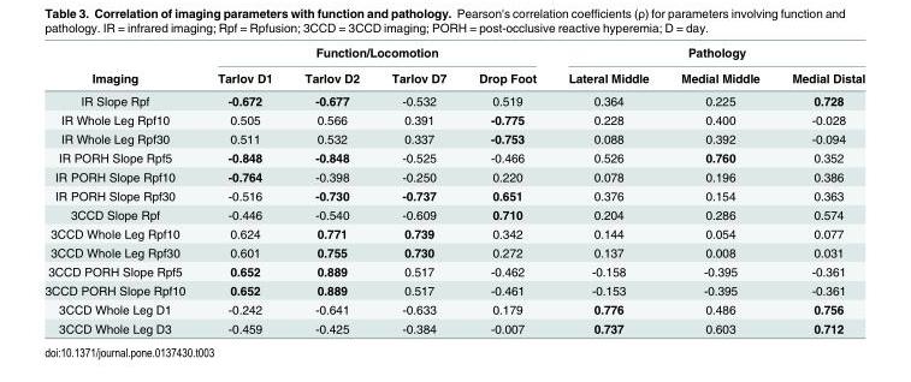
<table><thead><tr><td rowspan="2">Imaging</td><td colspan="4">Function/Locomotion</td><td colspan="3">Pathology</td></tr><tr><td>Tarlov D1</td><td>Tarlov D2</td><td>Tarlov D7</td><td>Drop Foot</td><td>Lateral Middle</td><td>Medial Middle</td><td>Medial Distal</td></tr></thead><tbody><tr><td>IR Slope Rpf</td><td>-0.672</td><td>-0.677</td><td>-0.532</td><td>0.519</td><td>0.364</td><td>0.225</td><td>0.728</td></tr><tr><td>IR Whole Leg Rpf10</td><td>0.505</td><td>0.566</td><td>0.391</td><td>-0.775</td><td>0.228</td><td>0.400</td><td>-0.028</td></tr><tr><td>IR Whole Leg Rpf30</td><td>0.511</td><td>0.532</td><td>0.337</td><td>-0.753</td><td>0.088</td><td>0.392</td><td>-0.094</td></tr><tr><td>IR PORH Slope Rpf5</td><td>-0.848</td><td>-0.848</td><td>-0.525</td><td>-0.466</td><td>0.526</td><td>0.760</td><td>0.352</td></tr><tr><td>IR PORH Slope Rpf10</td><td>-0.764</td><td>-0.398</td><td>-0.250</td><td>0.220</td><td>0.078</td><td>0.196</td><td>0.386</td></tr><tr><td>IR PORH Slope Rpf30</td><td>-0.516</td><td>-0.730</td><td>-0.737</td><td>0.651</td><td>0.376</td><td>0.154</td><td>0.363</td></tr><tr><td>3CCD Slope Rpf</td><td>-0.446</td><td>-0.540</td><td>-0.609</td><td>0.710</td><td>0.204</td><td>0.286</td><td>0.574</td></tr><tr><td>3CCD Whole Leg Rpf10</td><td>0.624</td><td>0.771</td><td>0.739</td><td>0.342</td><td>0.144</td><td>0.054</td><td>0.077</td></tr><tr><td>3CCD Whole Leg Rpf30</td><td>0.601</td><td>0.755</td><td>0.730</td><td>0.272</td><td>0.137</td><td>0.008</td><td>0.031</td></tr><tr><td>3CCD PORH Slope Rpf5</td><td>0.652</td><td>0.889</td><td>0.517</td><td>-0.462</td><td>-0.158</td><td>-0.395</td><td>-0.361</td></tr><tr><td>3CCD PORH Slope Rpf10</td><td>0.652</td><td>0.889</td><td>0.517</td><td>-0.461</td><td>-0.153</td><td>-0.395</td><td>-0.361</td></tr><tr><td>3CCD Whole Leg D1</td><td>-0.242</td><td>-0.641</td><td>-0.633</td><td>0.179</td><td>0.776</td><td>0.486</td><td>0.756</td></tr><tr><td>3CCD Whole Leg D3</td><td>-0.459</td><td>-0.425</td><td>-0.384</td><td>-0.007</td><td>0.737</td><td>0.603</td><td>0.712</td></tr></tbody></table>